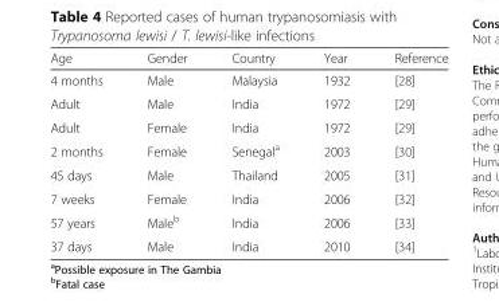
<table><thead><tr><td>Age</td><td>Gender</td><td>Country</td><td>Year</td><td>Reference</td></tr></thead><tbody><tr><td>4 months</td><td>Male</td><td>Malaysia</td><td>1932</td><td>[28]</td></tr><tr><td>Adult</td><td>Male</td><td>India</td><td>1972</td><td>[29]</td></tr><tr><td>Adult</td><td>Female</td><td>India</td><td>1972</td><td>[29]</td></tr><tr><td>2 months</td><td>Female</td><td>Senegal<sup>a</sup></td><td>2003</td><td>[30]</td></tr><tr><td>45 days</td><td>Male</td><td>Thailand</td><td>2005</td><td>[31]</td></tr><tr><td>7 weeks</td><td>Female</td><td>India</td><td>2006</td><td>[32]</td></tr><tr><td>57 years</td><td>Male<sup>b</sup></td><td>India</td><td>2006</td><td>[33]</td></tr><tr><td>37 days</td><td>Male</td><td>India</td><td>2010</td><td>[34]</td></tr></tbody></table>